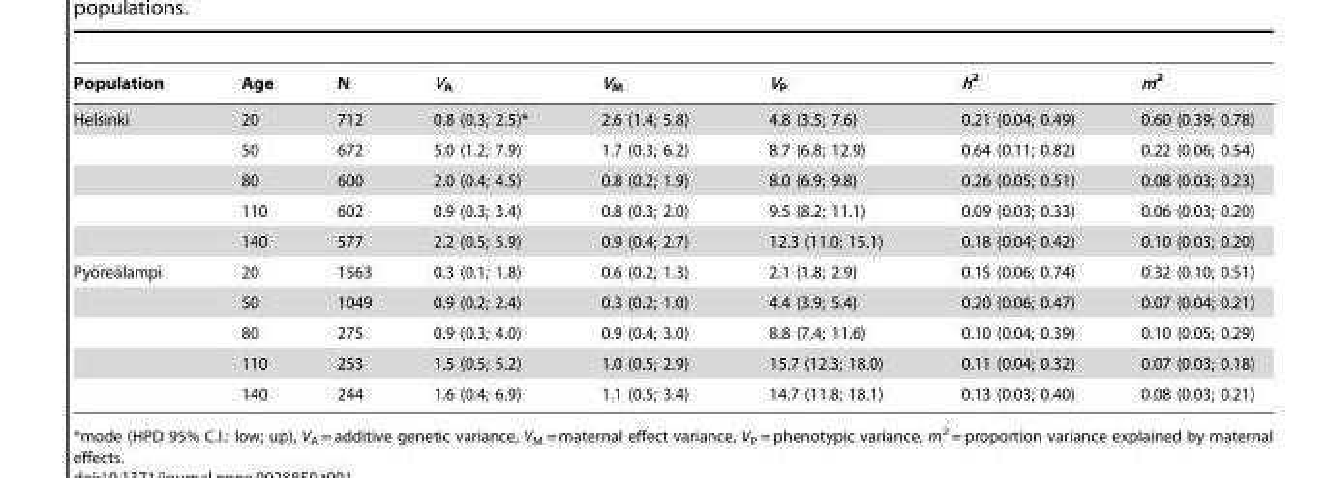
<table><thead><tr><td>Population</td><td>Age</td><td>N</td><td>V<sub>A</sub></td><td>V<sub>M</sub></td><td>V<sub>P</sub></td><td>h<sup>2</sup></td><td>m<sup>2</sup></td></tr></thead><tbody><tr><td rowspan="5">Helsinki</td><td>20</td><td>712</td><td>0.8 (0.3; 2.5)*</td><td>2.6 (1.4; 5.8)</td><td>4.8 (3.5; 7.6)</td><td>0.21 (0.04; 0.49)</td><td>0.60 (0.39; 0.78)</td></tr><tr><td>50</td><td>672</td><td>5.0 (1.2; 7.9)</td><td>1.7 (0.3; 6.2)</td><td>8.7 (6.8; 12.9)</td><td>0.64 (0.11; 0.82)</td><td>0.22 (0.06; 0.54)</td></tr><tr><td>80</td><td>600</td><td>2.0 (0.4; 4.5)</td><td>0.8 (0.2; 1.9)</td><td>8.0 (6.9; 9.8)</td><td>0.26 (0.05; 0.51)</td><td>0.08 (0.03; 0.23)</td></tr><tr><td>110</td><td>602</td><td>0.9 (0.3; 3.4)</td><td>0.8 (0.3; 2.0)</td><td>9.5 (8.2; 11.1)</td><td>0.09 (0.03; 0.33)</td><td>0.06 (0.03; 0.20)</td></tr><tr><td>140</td><td>577</td><td>2.2 (0.5; 5.9)</td><td>0.9 (0.4; 2.7)</td><td>12.3 (11.0; 15.1)</td><td>0.18 (0.04; 0.42)</td><td>0.10 (0.03; 0.20)</td></tr><tr><td rowspan="5">Pyo¨rea¨lampi</td><td>20</td><td>1563</td><td>0.3 (0.1; 1.8)</td><td>0.6 (0.2; 1.3)</td><td>2.1 (1.8; 2.9)</td><td>0.15 (0.06; 0.74)</td><td>0.32 (0.10; 0.51)</td></tr><tr><td>50</td><td>1049</td><td>0.9 (0.2; 2.4)</td><td>0.3 (0.2; 1.0)</td><td>4.4 (3.9; 5.4)</td><td>0.20 (0.06; 0.47)</td><td>0.07 (0.04; 0.21)</td></tr><tr><td>80</td><td>275</td><td>0.9 (0.3; 4.0)</td><td>0.9 (0.4; 3.0)</td><td>8.8 (7.4; 11.6)</td><td>0.10 (0.04; 0.39)</td><td>0.10 (0.05; 0.29)</td></tr><tr><td>110</td><td>253</td><td>1.5 (0.5; 5.2)</td><td>1.0 (0.5; 2.9)</td><td>15.7 (12.3; 18.0)</td><td>0.11 (0.04; 0.32)</td><td>0.07 (0.03; 0.18)</td></tr><tr><td>140</td><td>244</td><td>1.6 (0.4; 6.9)</td><td>1.1 (0.5; 3.4)</td><td>14.7 (11.8; 18.1)</td><td>0.13 (0.03; 0.40)</td><td>0.08 (0.03; 0.21)</td></tr></tbody></table>